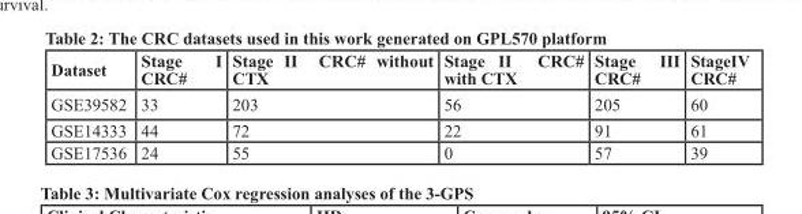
<table><thead><tr><td>Dataset</td><td>Stage I CRC#</td><td>Stage II CRC# without CTX</td><td>Stage II CRC# with CTX</td><td>Stage III CRC#</td><td>StageIV CRC#</td></tr></thead><tbody><tr><td>GSE39582</td><td>33</td><td>203</td><td>56</td><td>205</td><td>60</td></tr><tr><td>GSE14333</td><td>44</td><td>72</td><td>22</td><td>91</td><td>61</td></tr><tr><td>GSE17536</td><td>24</td><td>55</td><td>0</td><td>57</td><td>39</td></tr></tbody></table>